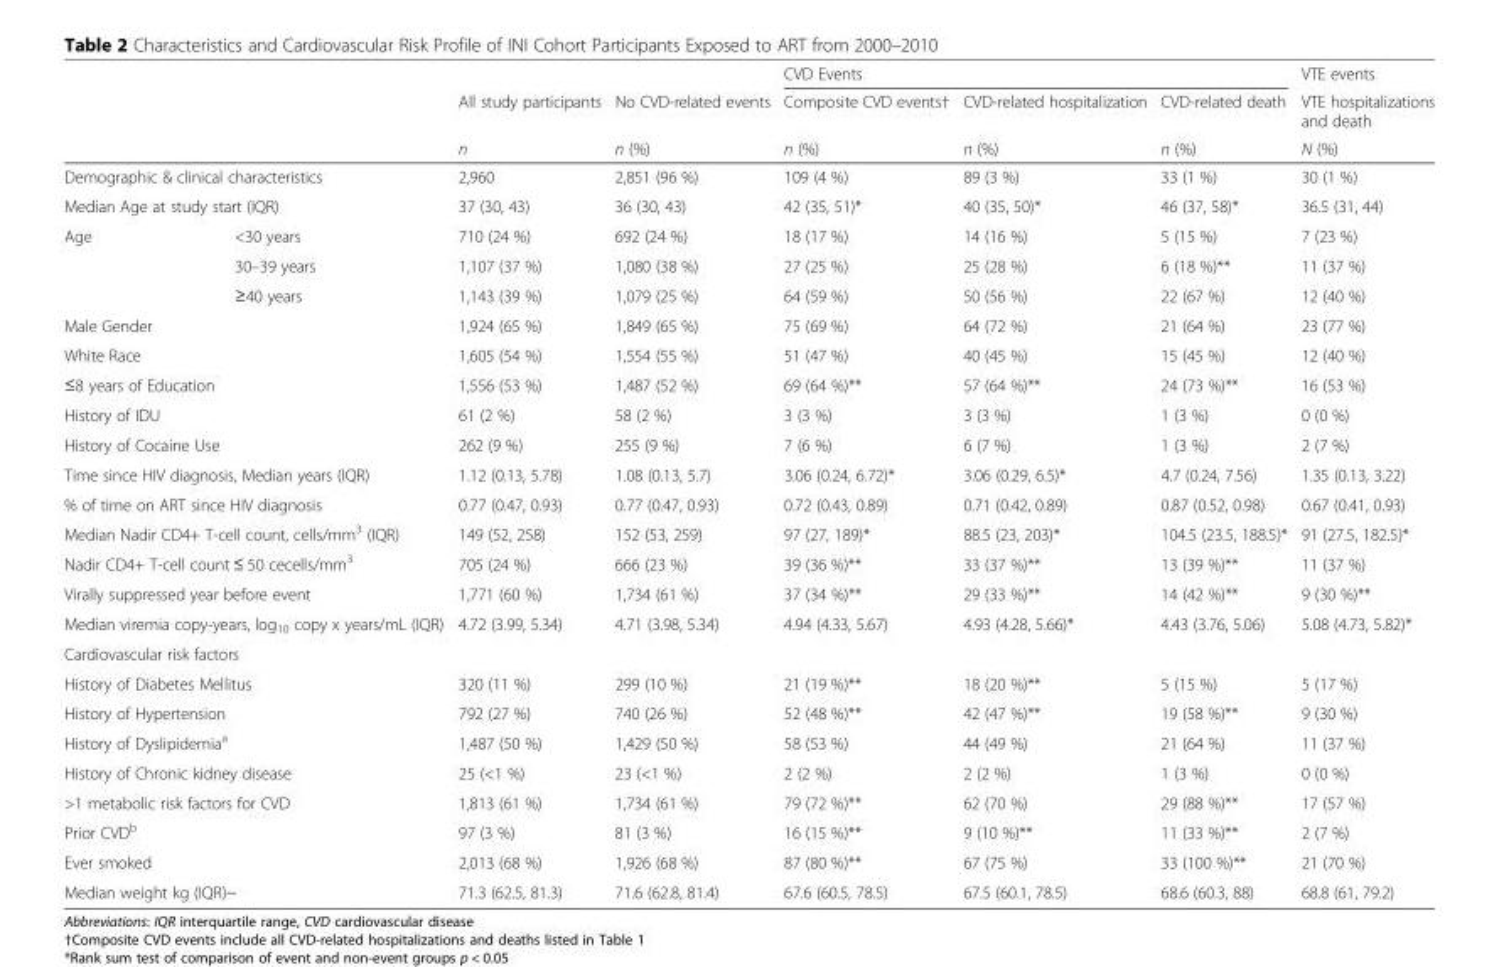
<table><thead><tr><td rowspan="3"></td><td rowspan="3"></td><td rowspan="3">All study participants n</td><td rowspan="3">No CVD-related events n (%)</td><td colspan="3">CVD Events</td><td rowspan="3">VTE events VTE hospitalizations and death N (%)</td></tr><tr><td rowspan="2">Composite CVD events† n (%)</td><td rowspan="2">CVD-related hospitalization n (%)</td><td rowspan="2">CVD-related death n (%)</td></tr><tr></tr></thead><tbody><tr><td colspan="2">Demographic &amp; clinical characteristics</td><td>2,960</td><td>2,851 (96 %)</td><td>109 (4 %)</td><td>89 (3 %)</td><td>33 (1 %)</td><td>30 (1 %)</td></tr><tr><td colspan="2">Median Age at study start (IQR)</td><td>37 (30, 43)</td><td>36 (30, 43)</td><td>42 (35, 51)*</td><td>40 (35, 50)*</td><td>46 (37, 58)*</td><td>36.5 (31, 44)</td></tr><tr><td rowspan="3">Age</td><td>&lt;30 years</td><td>710 (24 %)</td><td>692 (24 %)</td><td>18 (17 %)</td><td>14 (16 %)</td><td>5 (15 %)</td><td>7 (23 %)</td></tr><tr><td>30–39 years</td><td>1,107 (37 %)</td><td>1,080 (38 %)</td><td>27 (25 %)</td><td>25 (28 %)</td><td>6 (18 %)**</td><td>11 (37 %)</td></tr><tr><td>≥40 years</td><td>1,143 (39 %)</td><td>1,079 (25 %)</td><td>64 (59 %)</td><td>50 (56 %)</td><td>22 (67 %)</td><td>12 (40 %)</td></tr><tr><td colspan="2">Male Gender</td><td>1,924 (65 %)</td><td>1,849 (65 %)</td><td>75 (69 %)</td><td>64 (72 %)</td><td>21 (64 %)</td><td>23 (77 %)</td></tr><tr><td colspan="2">White Race</td><td>1,605 (54 %)</td><td>1,554 (55 %)</td><td>51 (47 %)</td><td>40 (45 %)</td><td>15 (45 %)</td><td>12 (40 %)</td></tr><tr><td colspan="2">≤8 years of Education</td><td>1,556 (53 %)</td><td>1,487 (52 %)</td><td>69 (64 %)**</td><td>57 (64 %)**</td><td>24 (73 %)**</td><td>16 (53 %)</td></tr><tr><td colspan="2">History of IDU</td><td>61 (2 %)</td><td>58 (2 %)</td><td>3 (3 %)</td><td>3 (3 %)</td><td>1 (3 %)</td><td>0 (0 %)</td></tr><tr><td colspan="2">History of Cocaine Use</td><td>262 (9 %)</td><td>255 (9 %)</td><td>7 (6 %)</td><td>6 (7 %)</td><td>1 (3 %)</td><td>2 (7 %)</td></tr><tr><td colspan="2">Time since HIV diagnosis, Median years (IQR)</td><td>1.12 (0.13, 5.78)</td><td>1.08 (0.13, 5.7)</td><td>3.06 (0.24, 6.72)*</td><td>3.06 (0.29, 6.5)*</td><td>4.7 (0.24, 7.56)</td><td>1.35 (0.13, 3.22)</td></tr><tr><td colspan="2">% of time on ART since HIV diagnosis</td><td>0.77 (0.47, 0.93)</td><td>0.77 (0.47, 0.93)</td><td>0.72 (0.43, 0.89)</td><td>0.71 (0.42, 0.89)</td><td>0.87 (0.52, 0.98)</td><td>0.67 (0.41, 0.93)</td></tr><tr><td colspan="2">Median Nadir CD4+ T-cell count, cells/mm<sup>3</sup> (IQR)</td><td>149 (52, 258)</td><td>152 (53, 259)</td><td>97 (27, 189)*</td><td>88.5 (23, 203)*</td><td>104.5 (23.5, 188.5)*</td><td>91 (27.5, 182.5)*</td></tr><tr><td colspan="2">Nadir CD4+ T-cell count ≤ 50 cecells/mm<sup>3</sup></td><td>705 (24 %)</td><td>666 (23 %)</td><td>39 (36 %)**</td><td>33 (37 %)**</td><td>13 (39 %)**</td><td>11 (37 %)</td></tr><tr><td colspan="2">Virally suppressed year before event</td><td>1,771 (60 %)</td><td>1,734 (61 %)</td><td>37 (34 %)**</td><td>29 (33 %)**</td><td>14 (42 %)**</td><td>9 (30 %)**</td></tr><tr><td colspan="2">Median viremia copy-years, log<sub>10</sub> copy x years/mL (IQR)</td><td>4.72 (3.99, 5.34)</td><td>4.71 (3.98, 5.34)</td><td>4.94 (4.33, 5.67)</td><td>4.93 (4.28, 5.66)*</td><td>4.43 (3.76, 5.06)</td><td>5.08 (4.73, 5.82)*</td></tr><tr><td colspan="8">Cardiovascular risk factors</td></tr><tr><td colspan="2">History of Diabetes Mellitus</td><td>320 (11 %)</td><td>299 (10 %)</td><td>21 (19 %)**</td><td>18 (20 %)**</td><td>5 (15 %)</td><td>5 (17 %)</td></tr><tr><td colspan="2">History of Hypertension</td><td>792 (27 %)</td><td>740 (26 %)</td><td>52 (48 %)**</td><td>42 (47 %)**</td><td>19 (58 %)**</td><td>9 (30 %)</td></tr><tr><td colspan="2">History of Dyslipidemia<sup>a</sup></td><td>1,487 (50 %)</td><td>1,429 (50 %)</td><td>58 (53 %)</td><td>44 (49 %)</td><td>21 (64 %)</td><td>11 (37 %)</td></tr><tr><td colspan="2">History of Chronic kidney disease</td><td>25 (&lt;1 %)</td><td>23 (&lt;1 %)</td><td>2 (2 %)</td><td>2 (2 %)</td><td>1 (3 %)</td><td>0 (0 %)</td></tr><tr><td colspan="2">&gt;1 metabolic risk factors for CVD</td><td>1,813 (61 %)</td><td>1,734 (61 %)</td><td>79 (72 %)**</td><td>62 (70 %)</td><td>29 (88 %)**</td><td>17 (57 %)</td></tr><tr><td colspan="2">Prior CVD<sup>b</sup></td><td>97 (3 %)</td><td>81 (3 %)</td><td>16 (15 %)**</td><td>9 (10 %)**</td><td>11 (33 %)**</td><td>2 (7 %)</td></tr><tr><td colspan="2">Ever smoked</td><td>2,013 (68 %)</td><td>1,926 (68 %)</td><td>87 (80 %)**</td><td>67 (75 %)</td><td>33 (100 %)**</td><td>21 (70 %)</td></tr><tr><td colspan="2">Median weight kg (IQR)~</td><td>71.3 (62.5, 81.3)</td><td>71.6 (62.8, 81.4)</td><td>67.6 (60.5, 78.5)</td><td>67.5 (60.1, 78.5)</td><td>68.6 (60.3, 88)</td><td>68.8 (61, 79.2)</td></tr></tbody></table>